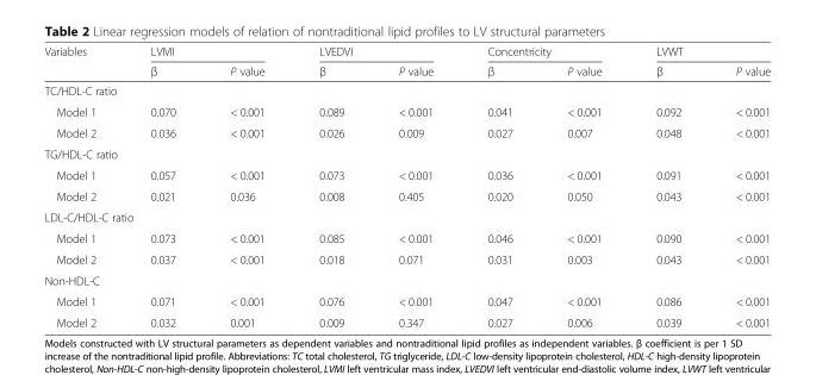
<table><thead><tr><td rowspan="2">Variables</td><td colspan="2">LVMI</td><td colspan="2">LVEDVI</td><td colspan="2">Concentricity</td><td colspan="2">LVWT</td></tr><tr><td>β</td><td>P value</td><td>β</td><td>P value</td><td>β</td><td>P value</td><td>β</td><td>P value</td></tr></thead><tbody><tr><td colspan="9">TC/HDL-C ratio</td></tr><tr><td>Model 1</td><td>0.070</td><td>&lt; 0.001</td><td>0.089</td><td>&lt; 0.001</td><td>0.041</td><td>&lt; 0.001</td><td>0.092</td><td>&lt; 0.001</td></tr><tr><td>Model 2</td><td>0.036</td><td>&lt; 0.001</td><td>0.026</td><td>0.009</td><td>0.027</td><td>0.007</td><td>0.048</td><td>&lt; 0.001</td></tr><tr><td colspan="9">TG/HDL-C ratio</td></tr><tr><td>Model 1</td><td>0.057</td><td>&lt; 0.001</td><td>0.073</td><td>&lt; 0.001</td><td>0.036</td><td>&lt; 0.001</td><td>0.091</td><td>&lt; 0.001</td></tr><tr><td>Model 2</td><td>0.021</td><td>0.036</td><td>0.008</td><td>0.405</td><td>0.020</td><td>0.050</td><td>0.043</td><td>&lt; 0.001</td></tr><tr><td colspan="9">LDL-C/HDL-C ratio</td></tr><tr><td>Model 1</td><td>0.073</td><td>&lt; 0.001</td><td>0.085</td><td>&lt; 0.001</td><td>0.046</td><td>&lt; 0.001</td><td>0.090</td><td>&lt; 0.001</td></tr><tr><td>Model 2</td><td>0.037</td><td>&lt; 0.001</td><td>0.018</td><td>0.071</td><td>0.031</td><td>0.003</td><td>0.043</td><td>&lt; 0.001</td></tr><tr><td colspan="9">Non-HDL-C</td></tr><tr><td>Model 1</td><td>0.071</td><td>&lt; 0.001</td><td>0.076</td><td>&lt; 0.001</td><td>0.047</td><td>&lt; 0.001</td><td>0.086</td><td>&lt; 0.001</td></tr><tr><td>Model 2</td><td>0.032</td><td>0.001</td><td>0.009</td><td>0.347</td><td>0.027</td><td>0.006</td><td>0.039</td><td>&lt; 0.001</td></tr></tbody></table>